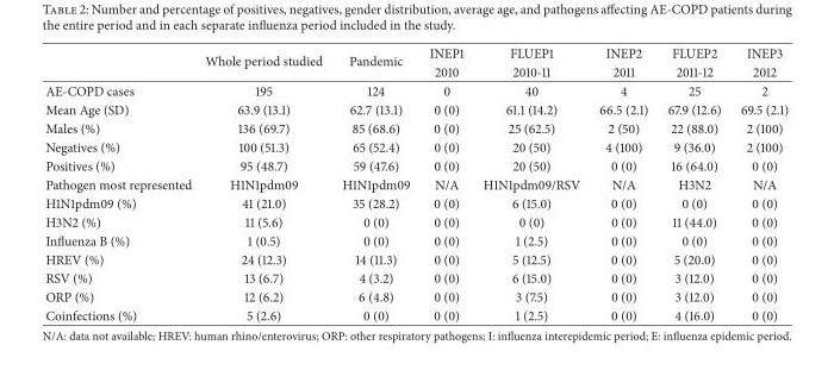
<table><thead><tr><td rowspan="2"></td><td rowspan="2">Whole period studied</td><td rowspan="2">Pandemic</td><td rowspan="2">INEP1 2010</td><td rowspan="2">FLUEP1 2010-11</td><td rowspan="2">INEP2 2011</td><td rowspan="2">FLUEP2 2011-12</td><td rowspan="2">INEP3 2012</td></tr><tr></tr></thead><tbody><tr><td>AE-COPD cases</td><td>195</td><td>124</td><td>0</td><td>40</td><td>4</td><td>25</td><td>2</td></tr><tr><td>Mean Age (SD)</td><td>63.9 (13.1)</td><td>62.7 (13.1)</td><td>0 (0)</td><td>61.1 (14.2)</td><td>66.5 (2.1)</td><td>67.9 (12.6)</td><td>69.5 (2.1)</td></tr><tr><td>Males (%)</td><td>136 (69.7)</td><td>85 (68.6)</td><td>0 (0)</td><td>25 (62.5)</td><td>2 (50)</td><td>22 (88.0)</td><td>2 (100)</td></tr><tr><td>Negatives (%)</td><td>100 (51.3)</td><td>65 (52.4)</td><td>0 (0)</td><td>20 (50)</td><td>4 (100)</td><td>9 (36.0)</td><td>2 (100)</td></tr><tr><td>Positives (%)</td><td>95 (48.7)</td><td>59 (47.6)</td><td>0 (0)</td><td>20 (50)</td><td>0 (0)</td><td>16 (64.0)</td><td>0 (0)</td></tr><tr><td>Pathogen most represented</td><td>H1N1pdm09</td><td>H1N1pdm09</td><td>N/A</td><td>H1N1pdm09/RSV</td><td>N/A</td><td>H3N2</td><td>N/A</td></tr><tr><td>H1N1pdm09 (%)</td><td>41 (21.0)</td><td>35 (28.2)</td><td>0 (0)</td><td>6 (15.0)</td><td>0 (0)</td><td>0 (0)</td><td>0 (0)</td></tr><tr><td>H3N2 (%)</td><td>11 (5.6)</td><td>0 (0)</td><td>0 (0)</td><td>0 (0)</td><td>0 (0)</td><td>11 (44.0)</td><td>0 (0)</td></tr><tr><td>Influenza B (%)</td><td>1 (0.5)</td><td>0 (0)</td><td>0 (0)</td><td>1 (2.5)</td><td>0 (0)</td><td>0 (0)</td><td>0 (0)</td></tr><tr><td>HREV (%)</td><td>24 (12.3)</td><td>14 (11.3)</td><td>0 (0)</td><td>5 (12.5)</td><td>0 (0)</td><td>5 (20.0)</td><td>0 (0)</td></tr><tr><td>RSV (%)</td><td>13 (6.7)</td><td>4 (3.2)</td><td>0 (0)</td><td>6 (15.0)</td><td>0 (0)</td><td>3 (12.0)</td><td>0 (0)</td></tr><tr><td>ORP (%)</td><td>12 (6.2)</td><td>6 (4.8)</td><td>0 (0)</td><td>3 (7.5)</td><td>0 (0)</td><td>3 (12.0)</td><td>0 (0)</td></tr><tr><td>Coinfections (%)</td><td>5 (2.6)</td><td>0 (0)</td><td>0 (0)</td><td>1 (2.5)</td><td>0 (0)</td><td>4 (16.0)</td><td>0 (0)</td></tr></tbody></table>